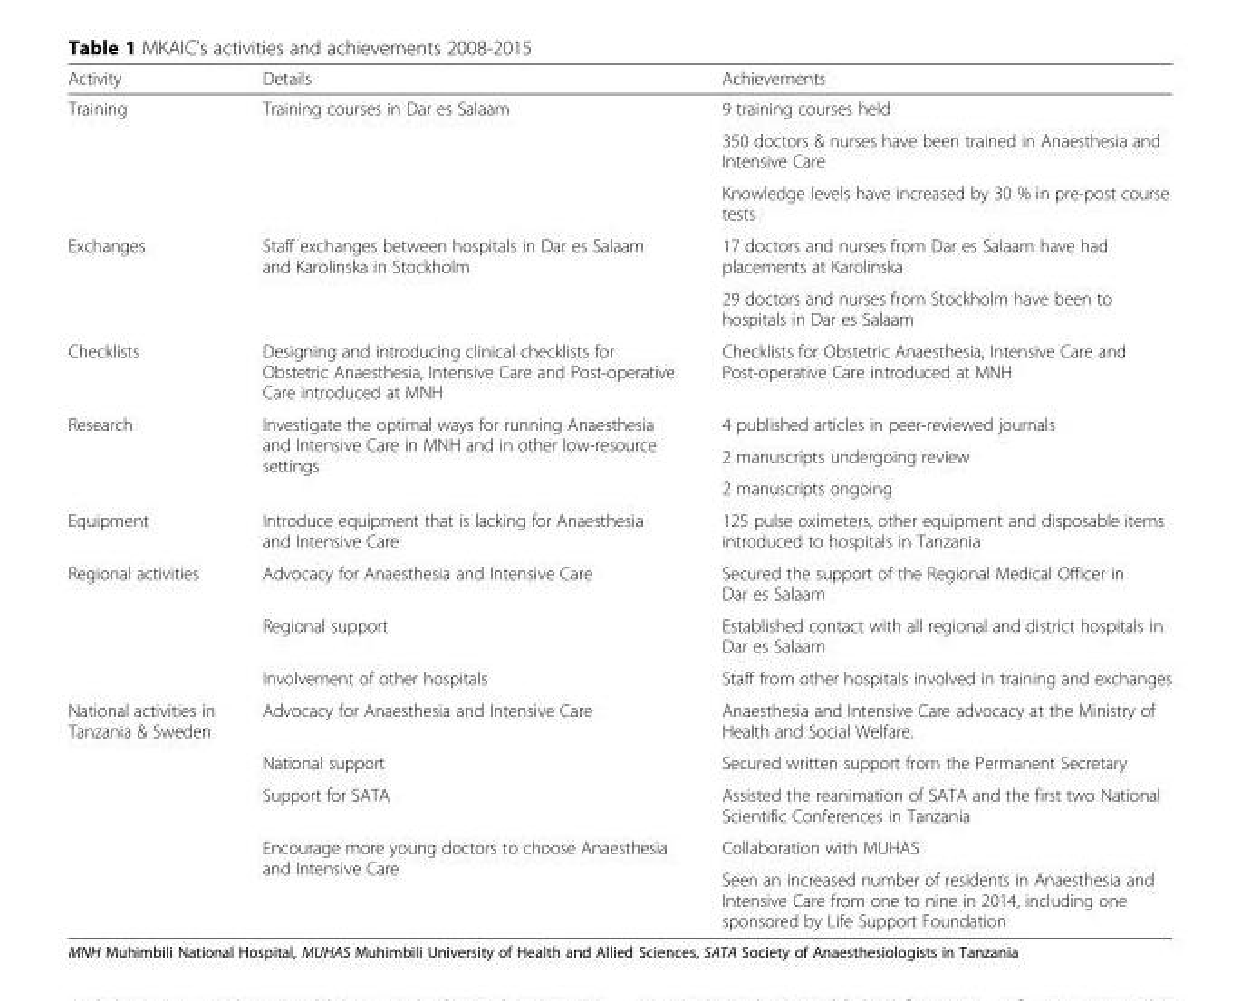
<table><thead><tr><td>Activity</td><td>Details</td><td>Achievements</td></tr></thead><tbody><tr><td rowspan="3">Training</td><td rowspan="3">Training courses in Dar es Salaam</td><td>9 training courses held</td></tr><tr><td>350 doctors &amp; nurses have been trained in Anaesthesia and Intensive Care</td></tr><tr><td>Knowledge levels have increased by 30 % in pre-post course tests</td></tr><tr><td rowspan="2">Exchanges</td><td rowspan="2">Staff exchanges between hospitals in Dar es Salaam and Karolinska in Stockholm</td><td>17 doctors and nurses from Dar es Salaam have had placements at Karolinska</td></tr><tr><td>29 doctors and nurses from Stockholm have been to hospitals in Dar es Salaam</td></tr><tr><td>Checklists</td><td>Designing and introducing clinical checklists for Obstetric Anaesthesia, Intensive Care and Post-operative Care introduced at MNH</td><td>Checklists for Obstetric Anaesthesia, Intensive Care and Post-operative Care introduced at MNH</td></tr><tr><td rowspan="3">Research</td><td rowspan="3">Investigate the optimal ways for running Anaesthesia and Intensive Care in MNH and in other low-resource settings</td><td>4 published articles in peer-reviewed journals</td></tr><tr><td>2 manuscripts undergoing review</td></tr><tr><td>2 manuscripts ongoing</td></tr><tr><td>Equipment</td><td>Introduce equipment that is lacking for Anaesthesia and Intensive Care</td><td>125 pulse oximeters, other equipment and disposable items introduced to hospitals in Tanzania</td></tr><tr><td rowspan="3">Regional activities</td><td>Advocacy for Anaesthesia and Intensive Care</td><td>Secured the support of the Regional Medical Officer in Dar es Salaam</td></tr><tr><td>Regional support</td><td>Established contact with all regional and district hospitals in Dar es Salaam</td></tr><tr><td>Involvement of other hospitals</td><td>Staff from other hospitals involved in training and exchanges</td></tr><tr><td rowspan="5">National activities in Tanzania &amp; Sweden</td><td>Advocacy for Anaesthesia and Intensive Care</td><td>Anaesthesia and Intensive Care advocacy at the Ministry of Health and Social Welfare.</td></tr><tr><td>National support</td><td>Secured written support from the Permanent Secretary</td></tr><tr><td>Support for SATA</td><td>Assisted the reanimation of SATA and the first two National Scientific Conferences in Tanzania</td></tr><tr><td rowspan="2">Encourage more young doctors to choose Anaesthesia and Intensive Care</td><td>Collaboration with MUHAS</td></tr><tr><td>Seen an increased number of residents in Anaesthesia and Intensive Care from one to nine in 2014, including one sponsored by Life Support Foundation</td></tr></tbody></table>